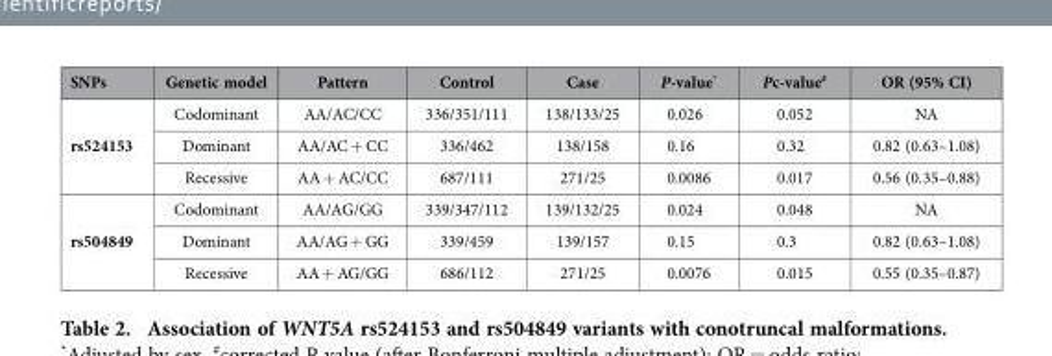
<table><thead><tr><td>SNPs</td><td>Genetic model</td><td>Pattern</td><td>Control</td><td>Case</td><td>P-value*</td><td>Pc-value#</td><td>OR (95% CI)</td></tr></thead><tbody><tr><td rowspan="3">rs524153</td><td>Codominant</td><td>AA/AC/CC</td><td>336/351/111</td><td>138/133/25</td><td>0.026</td><td>0.052</td><td>NA</td></tr><tr><td>Dominant</td><td>AA/AC + CC</td><td>336/462</td><td>138/158</td><td>0.16</td><td>0.32</td><td>0.82 (0.63–1.08)</td></tr><tr><td>Recessive</td><td>AA + AC/CC</td><td>687/111</td><td>271/25</td><td>0.0086</td><td>0.017</td><td>0.56 (0.35–0.88)</td></tr><tr><td rowspan="3">rs504849</td><td>Codominant</td><td>AA/AG/GG</td><td>339/347/112</td><td>139/132/25</td><td>0.024</td><td>0.048</td><td>NA</td></tr><tr><td>Dominant</td><td>AA/AG + GG</td><td>339/459</td><td>139/157</td><td>0.15</td><td>0.3</td><td>0.82 (0.63–1.08)</td></tr><tr><td>Recessive</td><td>AA + AG/GG</td><td>686/112</td><td>271/25</td><td>0.0076</td><td>0.015</td><td>0.55 (0.35–0.87)</td></tr></tbody></table>